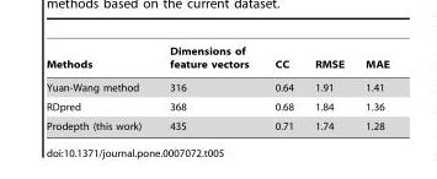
<table><thead><tr><td>Methods</td><td>Dimensions of feature vectors</td><td>CC</td><td>RMSE</td><td>MAE</td></tr></thead><tbody><tr><td>Yuan-Wang method</td><td>316</td><td>0.64</td><td>1.91</td><td>1.41</td></tr><tr><td>RDpred</td><td>368</td><td>0.68</td><td>1.84</td><td>1.36</td></tr><tr><td>Prodepth (this work)</td><td>435</td><td>0.71</td><td>1.74</td><td>1.28</td></tr></tbody></table>